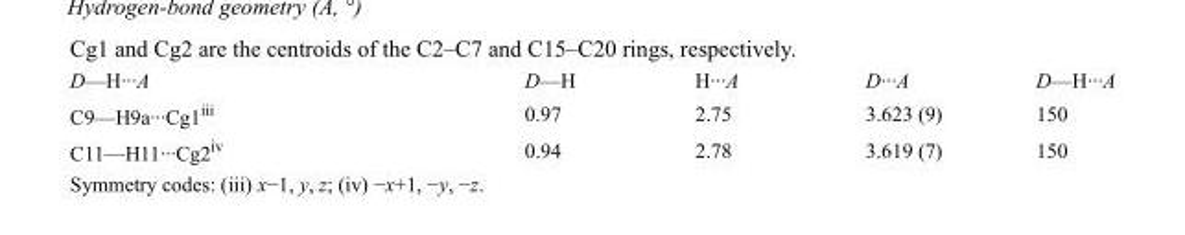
<table><tbody><tr><td>D—H···A</td><td>D—H</td><td>H···A</td><td>D···A</td><td>D—H···A</td></tr><tr><td>C9—H9a···Cg1<sup>iii</sup></td><td>0.97</td><td>2.75</td><td>3.623 (9)</td><td>150</td></tr><tr><td>C11—H11···Cg2<sup>iv</sup></td><td>0.94</td><td>2.78</td><td>3.619 (7)</td><td>150</td></tr></tbody></table>